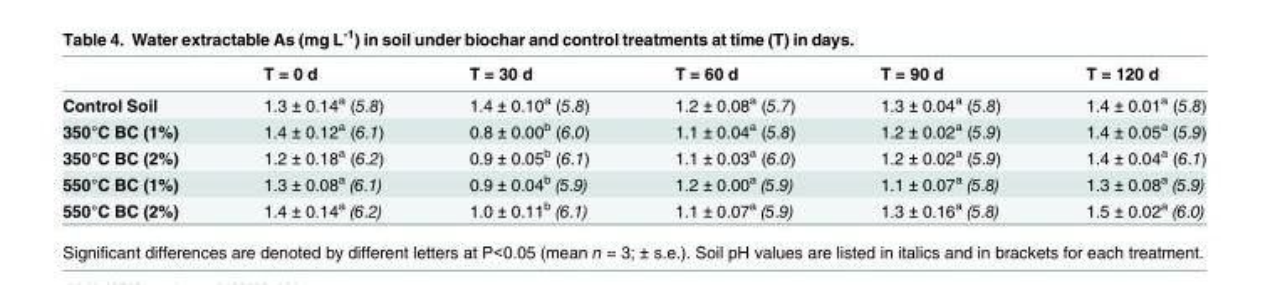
<table><thead><tr><td></td><td>T = 0 d</td><td>T = 30 d</td><td>T = 60 d</td><td>T = 90 d</td><td>T = 120 d</td></tr></thead><tbody><tr><td>Control Soil</td><td>1.3 ± 0.14<sup>a</sup> (5.8)</td><td>1.4 ± 0.10<sup>a</sup> (5.8)</td><td>1.2 ± 0.08<sup>a</sup> (5.7)</td><td>1.3 ± 0.04<sup>a</sup> (5.8)</td><td>1.4 ± 0.01<sup>a</sup> (5.8)</td></tr><tr><td>350°C BC (1%)</td><td>1.4 ± 0.12<sup>a</sup> (6.1)</td><td>0.8 ± 0.00<sup>b</sup> (6.0)</td><td>1.1 ± 0.04<sup>a</sup> (5.8)</td><td>1.2 ± 0.02<sup>a</sup> (5.9)</td><td>1.4 ± 0.05<sup>a</sup> (5.9)</td></tr><tr><td>350°C BC (2%)</td><td>1.2 ± 0.18<sup>a</sup> (6.2)</td><td>0.9 ± 0.05<sup>b</sup> (6.1)</td><td>1.1 ± 0.03<sup>a</sup> (6.0)</td><td>1.2 ± 0.02<sup>a</sup> (5.9)</td><td>1.4 ± 0.04<sup>a</sup> (6.1)</td></tr><tr><td>550°C BC (1%)</td><td>1.3 ± 0.08<sup>a</sup> (6.1)</td><td>0.9 ± 0.04<sup>b</sup> (5.9)</td><td>1.2 ± 0.00<sup>a</sup> (5.9)</td><td>1.1 ± 0.07<sup>a</sup> (5.8)</td><td>1.3 ± 0.08<sup>a</sup> (5.9)</td></tr><tr><td>550°C BC (2%)</td><td>1.4 ± 0.14<sup>a</sup> (6.2)</td><td>1.0 ± 0.11<sup>b</sup> (6.1)</td><td>1.1 ± 0.07<sup>a</sup> (5.9)</td><td>1.3 ± 0.16<sup>a</sup> (5.8)</td><td>1.5 ± 0.02<sup>a</sup> (6.0)</td></tr></tbody></table>